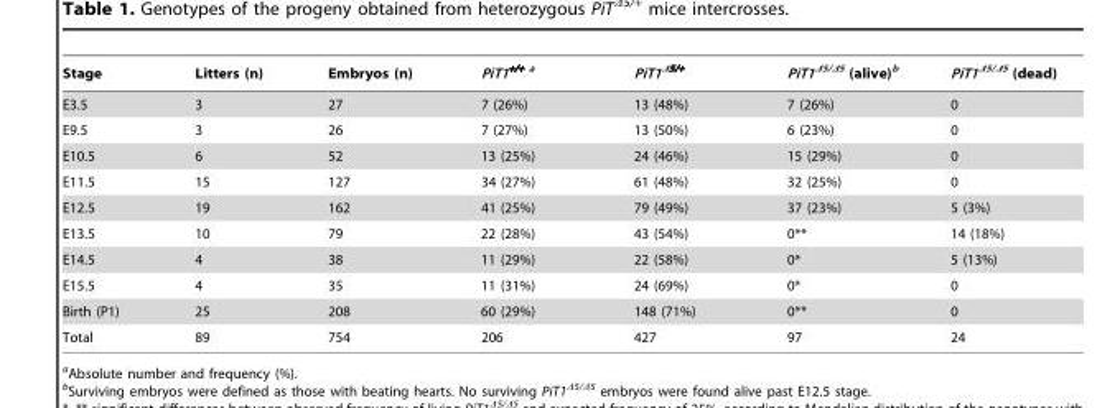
<table><thead><tr><td>Stage</td><td>Litters (n)</td><td>Embryos (n)</td><td>PiT1<sup>+/+</sup> a</td><td>PiT1<sup>Δ5/+</sup></td><td>PiT1<sup>Δ5/Δ5</sup> (alive)<sup>b</sup></td><td>PiT1<sup>Δ5/Δ5</sup> (dead)</td></tr></thead><tbody><tr><td>E3.5</td><td>3</td><td>27</td><td>7 (26%)</td><td>13 (48%)</td><td>7 (26%)</td><td>0</td></tr><tr><td>E9.5</td><td>3</td><td>26</td><td>7 (27%)</td><td>13 (50%)</td><td>6 (23%)</td><td>0</td></tr><tr><td>E10.5</td><td>6</td><td>52</td><td>13 (25%)</td><td>24 (46%)</td><td>15 (29%)</td><td>0</td></tr><tr><td>E11.5</td><td>15</td><td>127</td><td>34 (27%)</td><td>61 (48%)</td><td>32 (25%)</td><td>0</td></tr><tr><td>E12.5</td><td>19</td><td>162</td><td>41 (25%)</td><td>79 (49%)</td><td>37 (23%)</td><td>5 (3%)</td></tr><tr><td>E13.5</td><td>10</td><td>79</td><td>22 (28%)</td><td>43 (54%)</td><td>0**</td><td>14 (18%)</td></tr><tr><td>E14.5</td><td>4</td><td>38</td><td>11 (29%)</td><td>22 (58%)</td><td>0*</td><td>5 (13%)</td></tr><tr><td>E15.5</td><td>4</td><td>35</td><td>11 (31%)</td><td>24 (69%)</td><td>0*</td><td>0</td></tr><tr><td>Birth (P1)</td><td>25</td><td>208</td><td>60 (29%)</td><td>148 (71%)</td><td>0**</td><td>0</td></tr><tr><td>Total</td><td>89</td><td>754</td><td>206</td><td>427</td><td>97</td><td>24</td></tr></tbody></table>